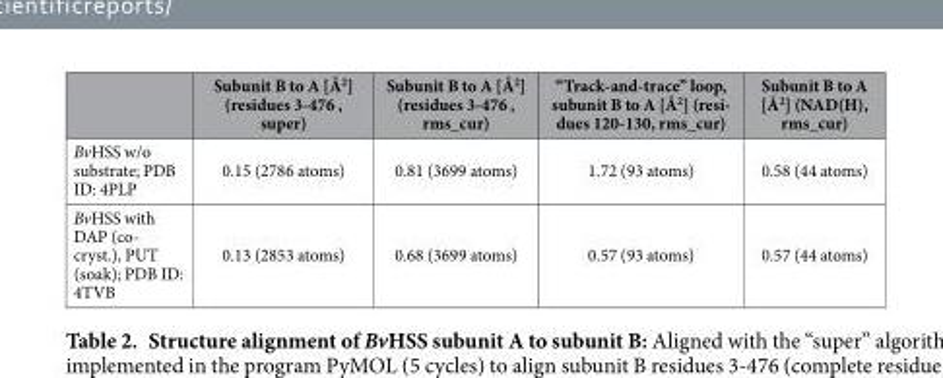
<table><thead><tr><td></td><td>Subunit B to A [Å<sup>2</sup>] (residues 3-476 , super)</td><td>Subunit B to A [Å<sup>2</sup>] (residues 3-476 , rms_cur)</td><td>“Track-and-trace” loop, subunit B to A [Å2] (resi- dues 120-130, rms_cur)</td><td>Subunit B to A [Å<sup>2</sup>] (NAD(H), rms_cur)</td></tr></thead><tbody><tr><td>BvHSS w/o substrate; PDB ID: 4PLP</td><td>0.15 (2786 atoms)</td><td>0.81 (3699 atoms)</td><td>1.72 (93 atoms)</td><td>0.58 (44 atoms)</td></tr><tr><td>BvHSS with DAP (co- cryst.), PUT (soak); PDB ID: 4TVB</td><td>0.13 (2853 atoms)</td><td>0.68 (3699 atoms)</td><td>0.57 (93 atoms)</td><td>0.57 (44 atoms)</td></tr></tbody></table>